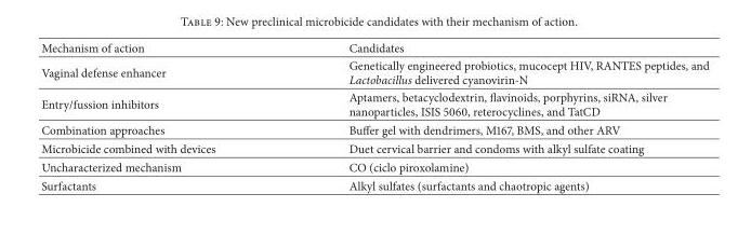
<table><thead><tr><td>Mechanism of action</td><td>Candidates</td></tr></thead><tbody><tr><td>Vaginal defense enhancer</td><td>Genetically engineered probiotics, mucocept HIV, RANTES peptides, and Lactobacillus delivered cyanovirin-N</td></tr><tr><td>Entry/fussion inhibitors</td><td>Aptamers, betacyclodextrin, flavinoids, porphyrins, siRNA, silver nanoparticles, ISIS 5060, reterocyclines, and TatCD</td></tr><tr><td>Combination approaches</td><td>Buffer gel with dendrimers, M167, BMS, and other ARV</td></tr><tr><td>Microbicide combined with devices</td><td>Duet cervical barrier and condoms with alkyl sulfate coating</td></tr><tr><td>Uncharacterized mechanism</td><td>CO (ciclo piroxolamine)</td></tr><tr><td>Surfactants</td><td>Alkyl sulfates (surfactants and chaotropic agents)</td></tr></tbody></table>